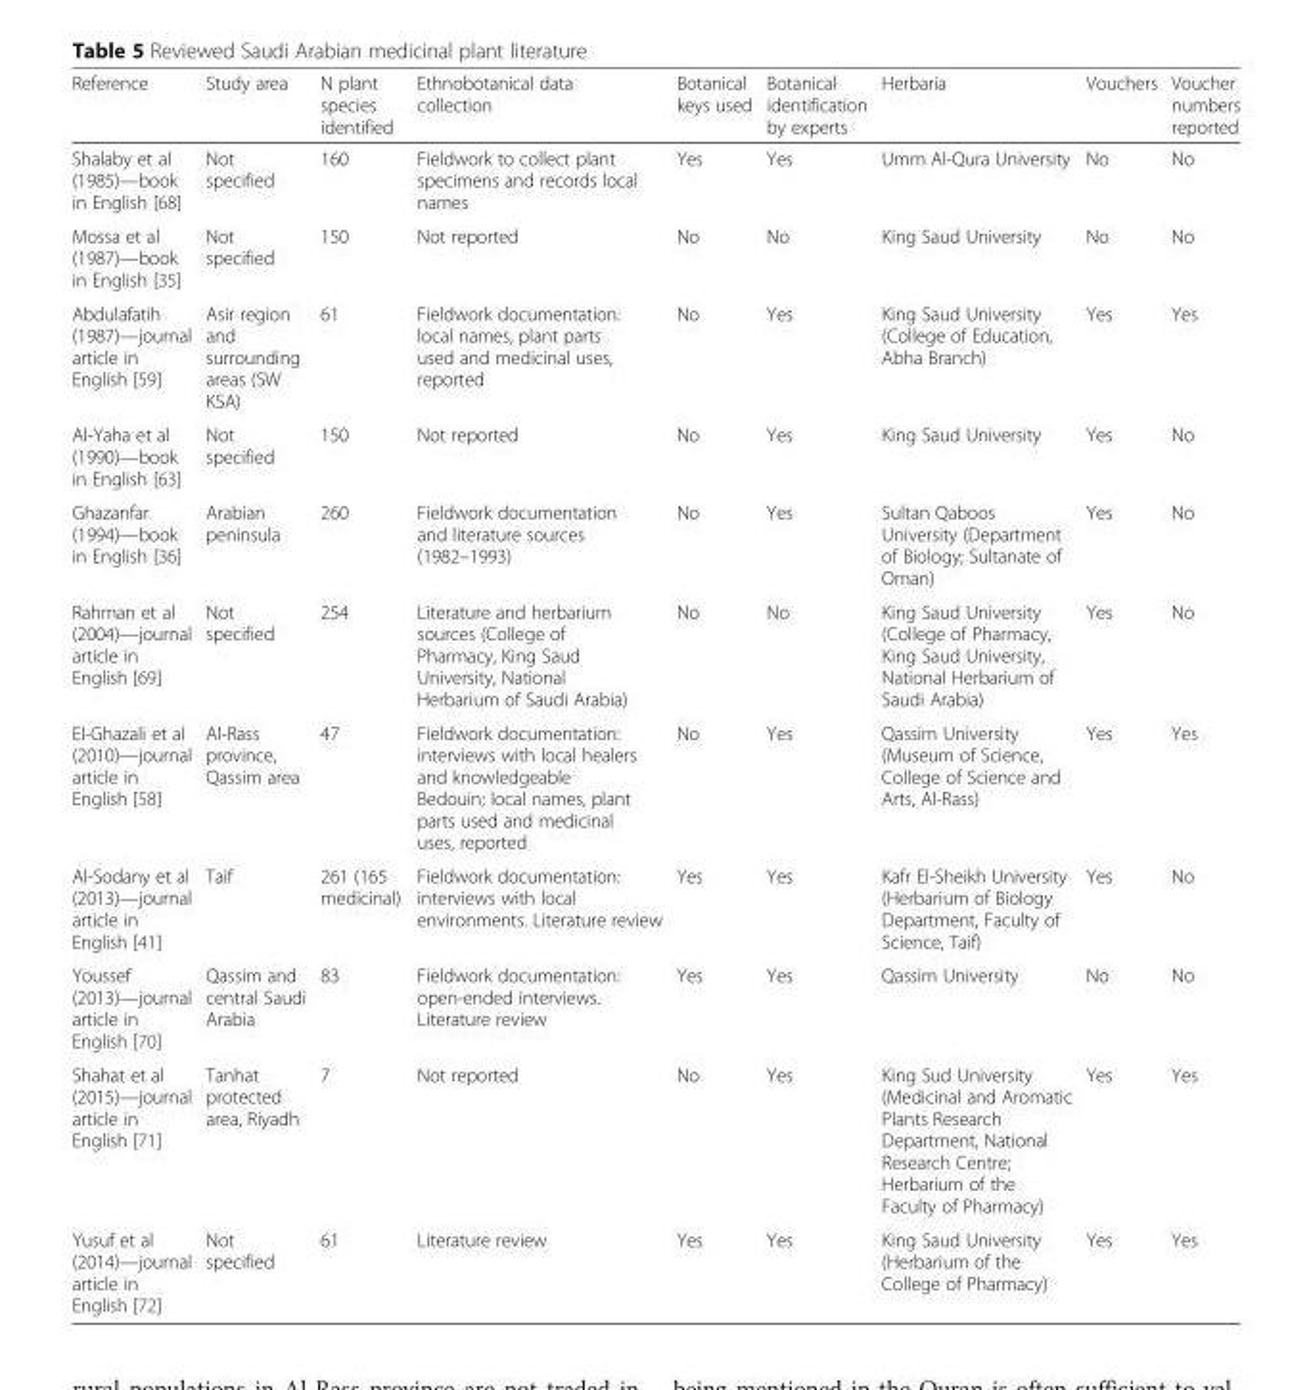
<table><thead><tr><td>Reference</td><td>Study area</td><td>N plant species identified</td><td>Ethnobotanical data collection</td><td>Botanical keys used</td><td>Botanical identification by experts</td><td>Herbaria</td><td>Vouchers</td><td>Voucher numbers reported</td></tr></thead><tbody><tr><td>Shalaby et al (1985)—book in English [68]</td><td>Not specified</td><td>160</td><td>Fieldwork to collect plant specimens and records local names</td><td>Yes</td><td>Yes</td><td>Umm Al-Qura University</td><td>No</td><td>No</td></tr><tr><td>Mossa et al (1987)—book in English [35]</td><td>Not specified</td><td>150</td><td>Not reported</td><td>No</td><td>No</td><td>King Saud University</td><td>No</td><td>No</td></tr><tr><td>Abdulafatih (1987)—journal article in English [59]</td><td>Asir region and surrounding areas (SW KSA)</td><td>61</td><td>Fieldwork documentation: local names, plant parts used and medicinal uses, reported</td><td>No</td><td>Yes</td><td>King Saud University (College of Education, Abha Branch)</td><td>Yes</td><td>Yes</td></tr><tr><td>Al-Yaha et al (1990)—book in English [63]</td><td>Not specified</td><td>150</td><td>Not reported</td><td>No</td><td>Yes</td><td>King Saud University</td><td>Yes</td><td>No</td></tr><tr><td>Ghazanfar (1994)—book in English [36]</td><td>Arabian peninsula</td><td>260</td><td>Fieldwork documentation and literature sources (1982–1993)</td><td>No</td><td>Yes</td><td>Sultan Qaboos University (Department of Biology; Sultanate of Oman)</td><td>Yes</td><td>No</td></tr><tr><td>Rahman et al (2004)—journal article in English [69]</td><td>Not specified</td><td>254</td><td>Literature and herbarium sources (College of Pharmacy, King Saud University, National Herbarium of Saudi Arabia)</td><td>No</td><td>No</td><td>King Saud University (College of Pharmacy, King Saud University, National Herbarium of Saudi Arabia)</td><td>Yes</td><td>No</td></tr><tr><td>El-Ghazali et al (2010)—journal article in English [58]</td><td>Al-Rass province, Qassim area</td><td>47</td><td>Fieldwork documentation: interviews with local healers and knowledgeable Bedouin; local names, plant parts used and medicinal uses, reported</td><td>No</td><td>Yes</td><td>Qassim University (Museum of Science, College of Science and Arts, Al-Rass)</td><td>Yes</td><td>Yes</td></tr><tr><td>Al-Sodany et al (2013)—journal article in English [41]</td><td>Taif</td><td>261 (165 medicinal)</td><td>Fieldwork documentation: interviews with local environments. Literature review</td><td>Yes</td><td>Yes</td><td>Kafr El-Sheikh University (Herbarium of Biology Department, Faculty of Science, Taif)</td><td>Yes</td><td>No</td></tr><tr><td>Youssef (2013)—journal article in English [70]</td><td>Qassim and central Saudi Arabia</td><td>83</td><td>Fieldwork documentation: open-ended interviews. Literature review</td><td>Yes</td><td>Yes</td><td>Qassim University</td><td>No</td><td>No</td></tr><tr><td>Shahat et al (2015)—journal article in English [71]</td><td>Tanhat protected area, Riyadh</td><td>7</td><td>Not reported</td><td>No</td><td>Yes</td><td>King Sud University (Medicinal and Aromatic Plants Research Department, National Research Centre; Herbarium of the Faculty of Pharmacy)</td><td>Yes</td><td>Yes</td></tr><tr><td>Yusuf et al (2014)—journal article in English [72]</td><td>Not specified</td><td>61</td><td>Literature review</td><td>Yes</td><td>Yes</td><td>King Saud University (Herbarium of the College of Pharmacy)</td><td>Yes</td><td>Yes</td></tr></tbody></table>